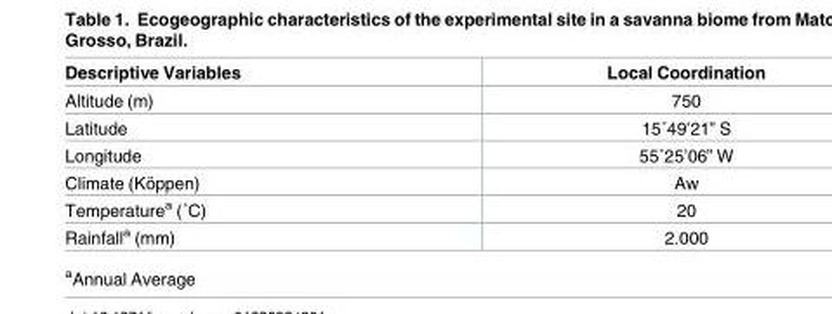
<table><thead><tr><td>Descriptive Variables</td><td>Local Coordination</td></tr></thead><tbody><tr><td>Altitude (m)</td><td>750</td></tr><tr><td>Latitude</td><td>15˚49’21” S</td></tr><tr><td>Longitude</td><td>55˚25’06” W</td></tr><tr><td>Climate (Ko¨ppen)</td><td>Aw</td></tr><tr><td>Temperaturea (˚C)</td><td>20</td></tr><tr><td>Rainfall<sup>a</sup> (mm)</td><td>2.000</td></tr></tbody></table>